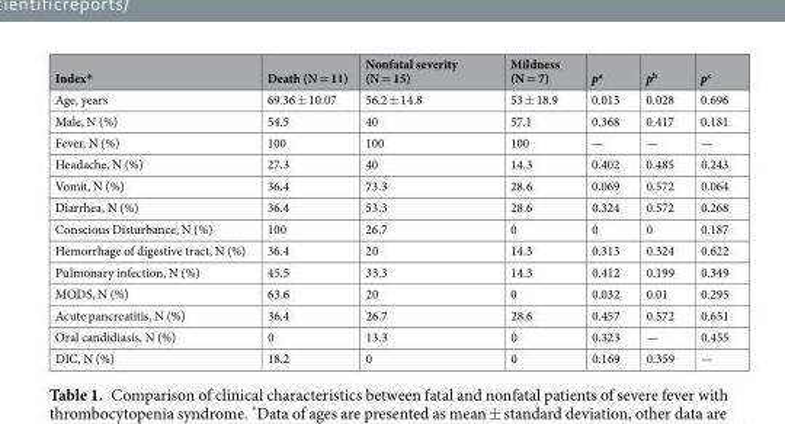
<table><thead><tr><td>Index*</td><td>Death (N = 11)</td><td>Nonfatal severity (N = 15)</td><td>Mildness (N = 7)</td><td>p<sup>a</sup></td><td>p<sup>b</sup></td><td>p<sup>c</sup></td></tr></thead><tbody><tr><td>Age, years</td><td>69.36 ± 10.07</td><td>56.2 ± 14.8</td><td>53 ± 18.9</td><td>0.013</td><td>0.028</td><td>0.696</td></tr><tr><td>Male, N (%)</td><td>54.5</td><td>40</td><td>57.1</td><td>0.368</td><td>0.417</td><td>0.181</td></tr><tr><td>Fever, N (%)</td><td>100</td><td>100</td><td>100</td><td>—</td><td>—</td><td>—</td></tr><tr><td>Headache, N (%)</td><td>27.3</td><td>40</td><td>14.3</td><td>0.402</td><td>0.485</td><td>0.243</td></tr><tr><td>Vomit, N (%)</td><td>36.4</td><td>73.3</td><td>28.6</td><td>0.069</td><td>0.572</td><td>0.064</td></tr><tr><td>Diarrhea, N (%)</td><td>36.4</td><td>53.3</td><td>28.6</td><td>0.324</td><td>0.572</td><td>0.268</td></tr><tr><td>Conscious Disturbance, N (%)</td><td>100</td><td>26.7</td><td>0</td><td>0</td><td>0</td><td>0.187</td></tr><tr><td>Hemorrhage of digestive tract, N (%)</td><td>36.4</td><td>20</td><td>14.3</td><td>0.313</td><td>0.324</td><td>0.622</td></tr><tr><td>Pulmonary infection, N (%)</td><td>45.5</td><td>33.3</td><td>14.3</td><td>0.412</td><td>0.199</td><td>0.349</td></tr><tr><td>MODS, N (%)</td><td>63.6</td><td>20</td><td>0</td><td>0.032</td><td>0.01</td><td>0.295</td></tr><tr><td>Acute pancreatitis, N (%)</td><td>36.4</td><td>26.7</td><td>28.6</td><td>0.457</td><td>0.572</td><td>0.651</td></tr><tr><td>Oral candidiasis, N (%)</td><td>0</td><td>13.3</td><td>0</td><td>0.323</td><td>—</td><td>0.455</td></tr><tr><td>DIC, N (%)</td><td>18.2</td><td>0</td><td>0</td><td>0.169</td><td>0.359</td><td>—</td></tr></tbody></table>